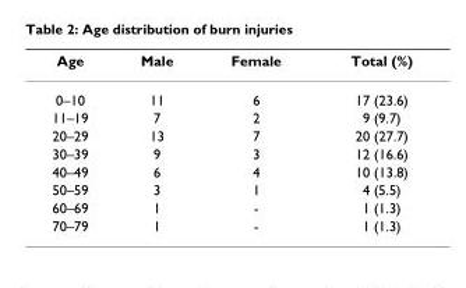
<table><thead><tr><td>Age</td><td>Male</td><td>Female</td><td>Total (%)</td></tr></thead><tbody><tr><td>0–10</td><td>11</td><td>6</td><td>17 (23.6)</td></tr><tr><td>11–19</td><td>7</td><td>2</td><td>9 (9.7)</td></tr><tr><td>20–29</td><td>13</td><td>7</td><td>20 (27.7)</td></tr><tr><td>30–39</td><td>9</td><td>3</td><td>12 (16.6)</td></tr><tr><td>40–49</td><td>6</td><td>4</td><td>10 (13.8)</td></tr><tr><td>50–59</td><td>3</td><td>1</td><td>4 (5.5)</td></tr><tr><td>60–69</td><td>1</td><td>-</td><td>1 (1.3)</td></tr><tr><td>70–79</td><td>1</td><td>-</td><td>1 (1.3)</td></tr></tbody></table>